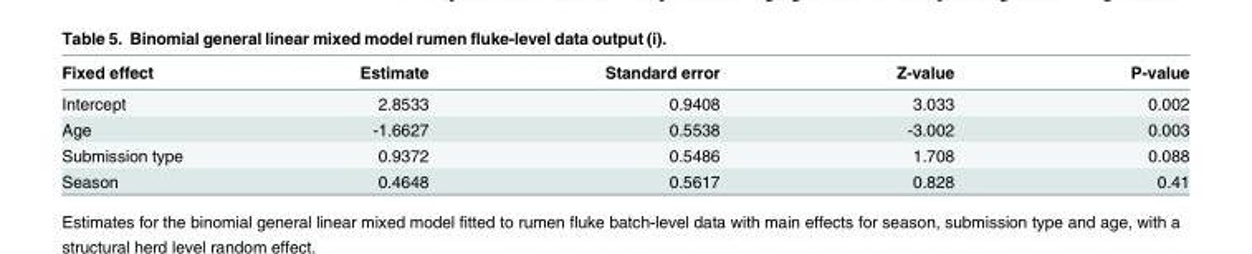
<table><thead><tr><td>Fixed effect</td><td>Estimate</td><td>Standard error</td><td>Z-value</td><td>P-value</td></tr></thead><tbody><tr><td>Intercept</td><td>2.8533</td><td>0.9408</td><td>3.033</td><td>0.002</td></tr><tr><td>Age</td><td>-1.6627</td><td>0.5538</td><td>-3.002</td><td>0.003</td></tr><tr><td>Submission type</td><td>0.9372</td><td>0.5486</td><td>1.708</td><td>0.088</td></tr><tr><td>Season</td><td>0.4648</td><td>0.5617</td><td>0.828</td><td>0.41</td></tr></tbody></table>